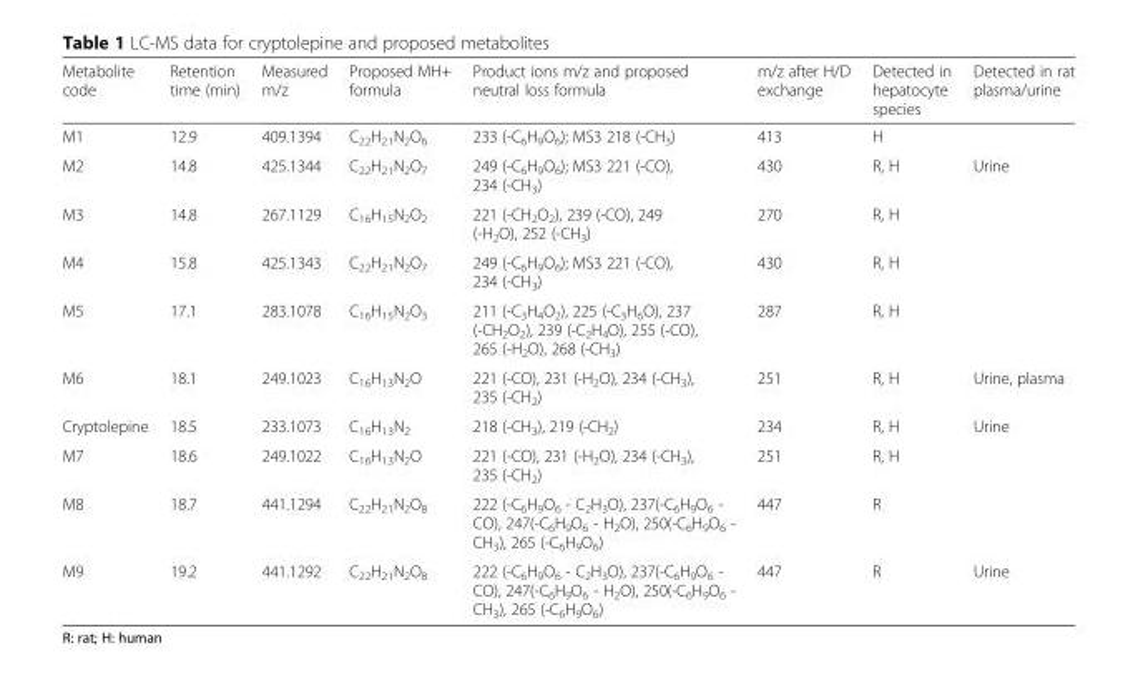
<table><thead><tr><td>Metabolite code</td><td>Retention time (min)</td><td>Measured m/z</td><td>Proposed MH+ formula</td><td>Product ions m/z and proposed neutral loss formula</td><td>m/z after H/D exchange</td><td>Detected in hepatocyte species</td><td>Detected in rat plasma/urine</td></tr></thead><tbody><tr><td>M1</td><td>12.9</td><td>409.1394</td><td>C<sub>22</sub>H<sub>21</sub>N<sub>2</sub>O<sub>6</sub></td><td>233 (-C<sub>6</sub>H<sub>9</sub>O<sub>6</sub>); MS3 218 (-CH<sub>3</sub>)</td><td>413</td><td>H</td><td></td></tr><tr><td>M2</td><td>14.8</td><td>425.1344</td><td>C<sub>22</sub>H<sub>21</sub>N<sub>2</sub>O<sub>7</sub></td><td>249 (-C<sub>6</sub>H<sub>9</sub>O<sub>6</sub>); MS3 221 (-CO), 234 (-CH<sub>3</sub>)</td><td>430</td><td>R, H</td><td>Urine</td></tr><tr><td>M3</td><td>14.8</td><td>267.1129</td><td>C<sub>16</sub>H<sub>15</sub>N<sub>2</sub>O<sub>2</sub></td><td>221 (-CH<sub>2</sub>O<sub>2</sub>), 239 (-CO), 249 (-H<sub>2</sub>O), 252 (-CH<sub>3</sub>)</td><td>270</td><td>R, H</td><td></td></tr><tr><td>M4</td><td>15.8</td><td>425.1343</td><td>C<sub>22</sub>H<sub>21</sub>N<sub>2</sub>O<sub>7</sub></td><td>249 (-C<sub>6</sub>H<sub>9</sub>O<sub>6</sub>); MS3 221 (-CO), 234 (-CH<sub>3</sub>)</td><td>430</td><td>R, H</td><td></td></tr><tr><td>M5</td><td>17.1</td><td>283.1078</td><td>C<sub>16</sub>H<sub>15</sub>N<sub>2</sub>O<sub>3</sub></td><td>211 (-C<sub>3</sub>H<sub>4</sub>O<sub>2</sub>), 225 (-C<sub>3</sub>H<sub>6</sub>O), 237 (-CH<sub>2</sub>O<sub>2</sub>), 239 (-C<sub>2</sub>H<sub>4</sub>O), 255 (-CO), 265 (-H<sub>2</sub>O), 268 (-CH<sub>3</sub>)</td><td>287</td><td>R, H</td><td></td></tr><tr><td>M6</td><td>18.1</td><td>249.1023</td><td>C<sub>16</sub>H<sub>13</sub>N<sub>2</sub>O</td><td>221 (-CO), 231 (-H<sub>2</sub>O), 234 (-CH<sub>3</sub>), 235 (-CH<sub>2</sub>)</td><td>251</td><td>R, H</td><td>Urine, plasma</td></tr><tr><td>Cryptolepine</td><td>18.5</td><td>233.1073</td><td>C<sub>16</sub>H<sub>13</sub>N<sub>2</sub></td><td>218 (-CH<sub>3</sub>), 219 (-CH<sub>2</sub>)</td><td>234</td><td>R, H</td><td>Urine</td></tr><tr><td>M7</td><td>18.6</td><td>249.1022</td><td>C<sub>16</sub>H<sub>13</sub>N<sub>2</sub>O</td><td>221 (-CO), 231 (-H<sub>2</sub>O), 234 (-CH<sub>3</sub>), 235 (-CH<sub>2</sub>)</td><td>251</td><td>R, H</td><td></td></tr><tr><td>M8</td><td>18.7</td><td>441.1294</td><td>C<sub>22</sub>H<sub>21</sub>N<sub>2</sub>O<sub>8</sub></td><td>222 (-C<sub>6</sub>H<sub>9</sub>O<sub>6</sub> - C<sub>2</sub>H<sub>3</sub>O), 237(-C<sub>6</sub>H<sub>9</sub>O<sub>6</sub> - CO), 247(-C<sub>6</sub>H<sub>9</sub>O<sub>6</sub> - H<sub>2</sub>O), 250(-C<sub>6</sub>H<sub>9</sub>O<sub>6</sub> - CH<sub>3</sub>), 265 (-C<sub>6</sub>H<sub>9</sub>O<sub>6</sub>)</td><td>447</td><td>R</td><td></td></tr><tr><td>M9</td><td>19.2</td><td>441.1292</td><td>C<sub>22</sub>H<sub>21</sub>N<sub>2</sub>O<sub>8</sub></td><td>222 (-C<sub>6</sub>H<sub>9</sub>O<sub>6</sub> - C<sub>2</sub>H<sub>3</sub>O), 237(-C<sub>6</sub>H<sub>9</sub>O<sub>6</sub> - CO), 247(-C<sub>6</sub>H<sub>9</sub>O<sub>6</sub> - H<sub>2</sub>O), 250(-C<sub>6</sub>H<sub>9</sub>O<sub>6</sub> - CH<sub>3</sub>), 265 (-C<sub>6</sub>H<sub>9</sub>O<sub>6</sub>)</td><td>447</td><td>R</td><td>Urine</td></tr></tbody></table>